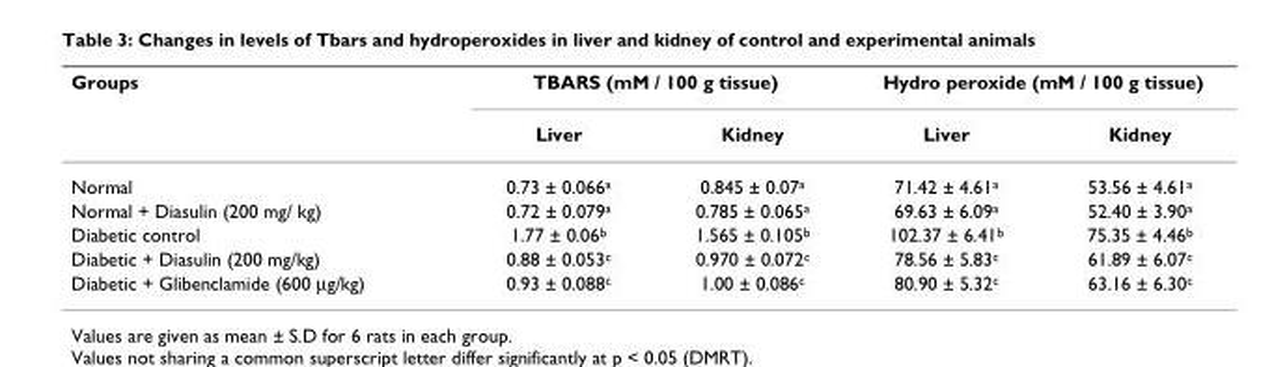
<table><thead><tr><td rowspan="2">Groups</td><td colspan="2">TBARS (mM / 100 g tissue)</td><td colspan="2">Hydro peroxide (mM / 100 g tissue)</td></tr><tr><td>Liver</td><td>Kidney</td><td>Liver</td><td>Kidney</td></tr></thead><tbody><tr><td>Normal</td><td>0.73 ± 0.066<sup>a</sup></td><td>0.845 ± 0.07<sup>a</sup></td><td>71.42 ± 4.61<sup>a</sup></td><td>53.56 ± 4.61<sup>a</sup></td></tr><tr><td>Normal + Diasulin (200 mg/ kg)</td><td>0.72 ± 0.079<sup>a</sup></td><td>0.785 ± 0.065<sup>a</sup></td><td>69.63 ± 6.09<sup>a</sup></td><td>52.40 ± 3.90<sup>a</sup></td></tr><tr><td>Diabetic control</td><td>1.77 ± 0.06<sup>b</sup></td><td>1.565 ± 0.105<sup>b</sup></td><td>102.37 ± 6.41<sup>b</sup></td><td>75.35 ± 4.46<sup>b</sup></td></tr><tr><td>Diabetic + Diasulin (200 mg/kg)</td><td>0.88 ± 0.053<sup>c</sup></td><td>0.970 ± 0.072<sup>c</sup></td><td>78.56 ± 5.83<sup>c</sup></td><td>61.89 ± 6.07<sup>c</sup></td></tr><tr><td>Diabetic + Glibenclamide (600 µg/kg)</td><td>0.93 ± 0.088<sup>c</sup></td><td>1.00 ± 0.086<sup>c</sup></td><td>80.90 ± 5.32<sup>c</sup></td><td>63.16 ± 6.30<sup>c</sup></td></tr></tbody></table>